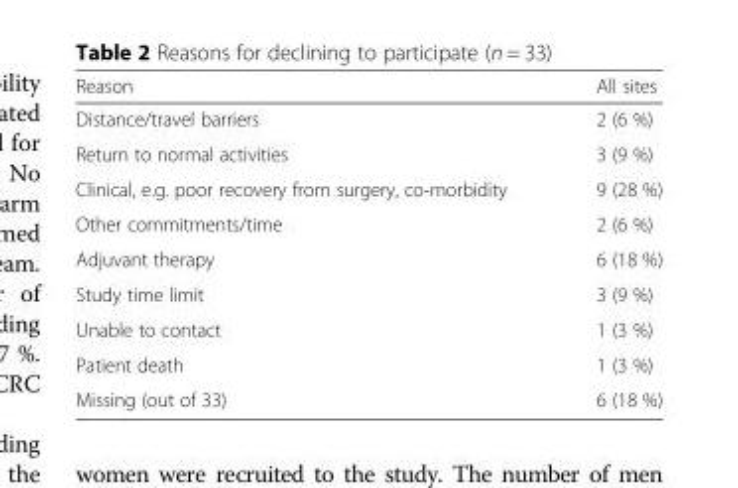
<table><thead><tr><td>Reason</td><td>All sites</td></tr></thead><tbody><tr><td>Distance/travel barriers</td><td>2 (6 %)</td></tr><tr><td>Return to normal activities</td><td>3 (9 %)</td></tr><tr><td>Clinical, e.g. poor recovery from surgery, co-morbidity</td><td>9 (28 %)</td></tr><tr><td>Other commitments/time</td><td>2 (6 %)</td></tr><tr><td>Adjuvant therapy</td><td>6 (18 %)</td></tr><tr><td>Study time limit</td><td>3 (9 %)</td></tr><tr><td>Unable to contact</td><td>1 (3 %)</td></tr><tr><td>Patient death</td><td>1 (3 %)</td></tr><tr><td>Missing (out of 33)</td><td>6 (18 %)</td></tr></tbody></table>